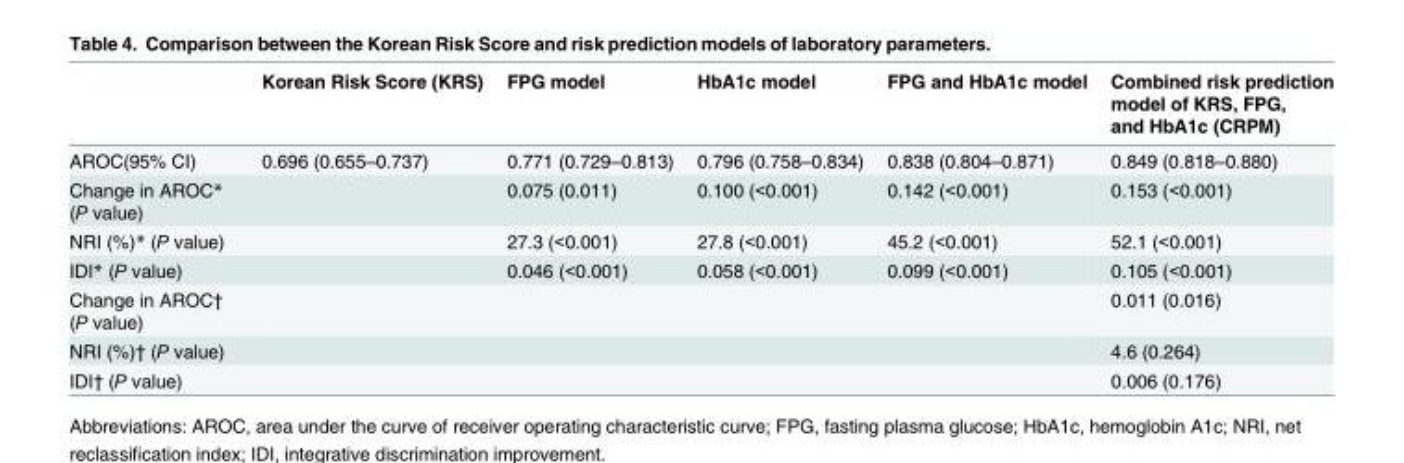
<table><thead><tr><td></td><td>Korean Risk Score (KRS)</td><td>FPG model</td><td>HbA1c model</td><td>FPG and HbA1c model</td><td>Combined risk prediction model of KRS, FPG, and HbA1c (CRPM)</td></tr></thead><tbody><tr><td>AROC(95% CI)</td><td>0.696 (0.655–0.737)</td><td>0.771 (0.729–0.813)</td><td>0.796 (0.758–0.834)</td><td>0.838 (0.804–0.871)</td><td>0.849 (0.818–0.880)</td></tr><tr><td>Change in AROC* (P value)</td><td></td><td>0.075 (0.011)</td><td>0.100 (&lt;0.001)</td><td>0.142 (&lt;0.001)</td><td>0.153 (&lt;0.001)</td></tr><tr><td>NRI (%)* (P value)</td><td></td><td>27.3 (&lt;0.001)</td><td>27.8 (&lt;0.001)</td><td>45.2 (&lt;0.001)</td><td>52.1 (&lt;0.001)</td></tr><tr><td>IDI* (P value)</td><td></td><td>0.046 (&lt;0.001)</td><td>0.058 (&lt;0.001)</td><td>0.099 (&lt;0.001)</td><td>0.105 (&lt;0.001)</td></tr><tr><td>Change in AROC† (P value)</td><td></td><td></td><td></td><td></td><td>0.011 (0.016)</td></tr><tr><td>NRI (%)† (P value)</td><td></td><td></td><td></td><td></td><td>4.6 (0.264)</td></tr><tr><td>IDI† (P value)</td><td></td><td></td><td></td><td></td><td>0.006 (0.176)</td></tr></tbody></table>